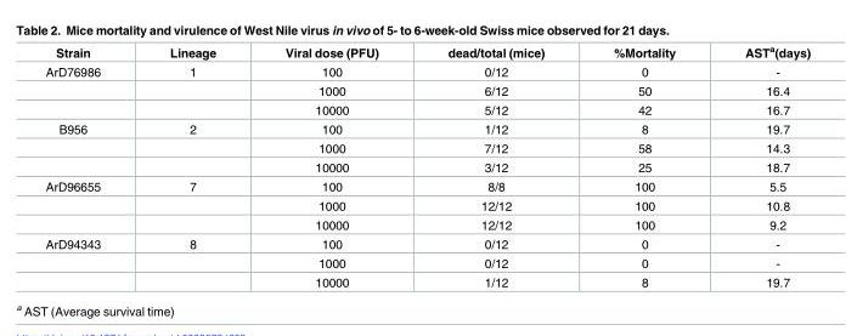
<table><thead><tr><td>Strain</td><td>Lineage</td><td>Viral dose (PFU)</td><td>dead/total (mice)</td><td>%Mortality</td><td>AST<sup>a</sup>(days)</td></tr></thead><tbody><tr><td rowspan="3">ArD76986</td><td>1</td><td>100</td><td>0/12</td><td>0</td><td>-</td></tr><tr><td></td><td>1000</td><td>6/12</td><td>50</td><td>16.4</td></tr><tr><td></td><td>10000</td><td>5/12</td><td>42</td><td>16.7</td></tr><tr><td rowspan="3">B956</td><td>2</td><td>100</td><td>1/12</td><td>8</td><td>19.7</td></tr><tr><td></td><td>1000</td><td>7/12</td><td>58</td><td>14.3</td></tr><tr><td></td><td>10000</td><td>3/12</td><td>25</td><td>18.7</td></tr><tr><td rowspan="3">ArD96655</td><td>7</td><td>100</td><td>8/8</td><td>100</td><td>5.5</td></tr><tr><td></td><td>1000</td><td>12/12</td><td>100</td><td>10.8</td></tr><tr><td></td><td>10000</td><td>12/12</td><td>100</td><td>9.2</td></tr><tr><td rowspan="3">ArD94343</td><td>8</td><td>100</td><td>0/12</td><td>0</td><td>-</td></tr><tr><td></td><td>1000</td><td>0/12</td><td>0</td><td>-</td></tr><tr><td></td><td>10000</td><td>1/12</td><td>8</td><td>19.7</td></tr></tbody></table>